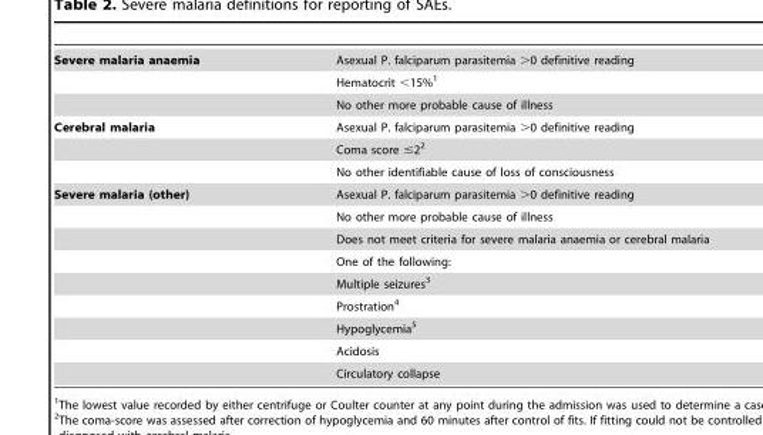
<table><tbody><tr><td rowspan="3">Severe malaria anaemia</td><td>Asexual P. falciparum parasitemia &gt;0 definitive reading</td></tr><tr><td>Hematocrit &lt;15%<sup>1</sup></td></tr><tr><td>No other more probable cause of illness</td></tr><tr><td rowspan="3">Cerebral malaria</td><td>Asexual P. falciparum parasitemia &gt;0 definitive reading</td></tr><tr><td>Coma score ≤2<sup>2</sup></td></tr><tr><td>No other identifiable cause of loss of consciousness</td></tr><tr><td rowspan="9">Severe malaria (other)</td><td>Asexual P. falciparum parasitemia &gt;0 definitive reading</td></tr><tr><td>No other more probable cause of illness</td></tr><tr><td>Does not meet criteria for severe malaria anaemia or cerebral malaria</td></tr><tr><td>One of the following:</td></tr><tr><td>Multiple seizures<sup>3</sup></td></tr><tr><td>Prostration<sup>4</sup></td></tr><tr><td>Hypoglycemia<sup>5</sup></td></tr><tr><td>Acidosis</td></tr><tr><td>Circulatory collapse</td></tr></tbody></table>